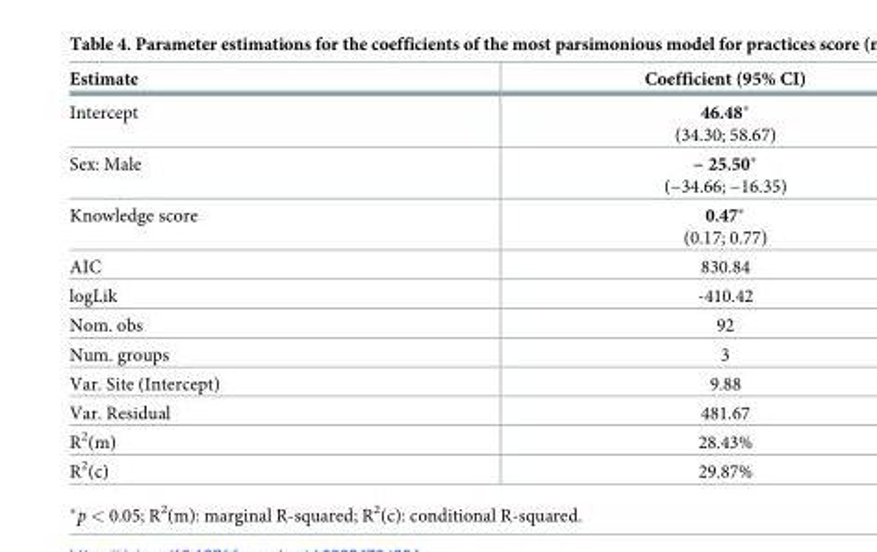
<table><thead><tr><td>Estimate</td><td>Coefficient (95% CI)</td></tr></thead><tbody><tr><td>Intercept</td><td>46.48* (34.30; 58.67)</td></tr><tr><td>Sex: Male</td><td>− 25.50* (−34.66; −16.35)</td></tr><tr><td>Knowledge score</td><td>0.47* (0.17; 0.77)</td></tr><tr><td>AIC</td><td>830.84</td></tr><tr><td>logLik</td><td>-410.42</td></tr><tr><td>Nom. obs</td><td>92</td></tr><tr><td>Num. groups</td><td>3</td></tr><tr><td>Var. Site (Intercept)</td><td>9.88</td></tr><tr><td>Var. Residual</td><td>481.67</td></tr><tr><td>R<sup>2</sup>(m)</td><td>28.43%</td></tr><tr><td>R<sup>2</sup>(c)</td><td>29.87%</td></tr></tbody></table>